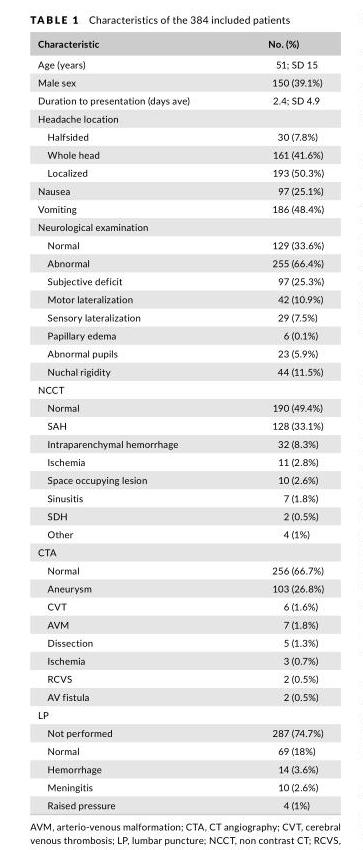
<table><thead><tr><td>Characteristic</td><td>No. (%)</td></tr></thead><tbody><tr><td>Age (years)</td><td>51; SD 15</td></tr><tr><td>Male sex</td><td>150 (39.1%)</td></tr><tr><td>Duration to presentation (days ave)</td><td>2.4; SD 4.9</td></tr><tr><td colspan="2">Headache location</td></tr><tr><td>Halfsided</td><td>30 (7.8%)</td></tr><tr><td>Whole head</td><td>161 (41.6%)</td></tr><tr><td>Localized</td><td>193 (50.3%)</td></tr><tr><td>Nausea</td><td>97 (25.1%)</td></tr><tr><td>Vomiting</td><td>186 (48.4%)</td></tr><tr><td colspan="2">Neurological examination</td></tr><tr><td>Normal</td><td>129 (33.6%)</td></tr><tr><td>Abnormal</td><td>255 (66.4%)</td></tr><tr><td>Subjective deficit</td><td>97 (25.3%)</td></tr><tr><td>Motor lateralization</td><td>42 (10.9%)</td></tr><tr><td>Sensory lateralization</td><td>29 (7.5%)</td></tr><tr><td>Papillary edema</td><td>6 (0.1%)</td></tr><tr><td>Abnormal pupils</td><td>23 (5.9%)</td></tr><tr><td>Nuchal rigidity</td><td>44 (11.5%)</td></tr><tr><td colspan="2">NCCT</td></tr><tr><td>Normal</td><td>190 (49.4%)</td></tr><tr><td>SAH</td><td>128 (33.1%)</td></tr><tr><td>Intraparenchymal hemorrhage</td><td>32 (8.3%)</td></tr><tr><td>Ischemia</td><td>11 (2.8%)</td></tr><tr><td>Space occupying lesion</td><td>10 (2.6%)</td></tr><tr><td>Sinusitis</td><td>7 (1.8%)</td></tr><tr><td>SDH</td><td>2 (0.5%)</td></tr><tr><td>Other</td><td>4 (1%)</td></tr><tr><td colspan="2">CTA</td></tr><tr><td>Normal</td><td>256 (66.7%)</td></tr><tr><td>Aneurysm</td><td>103 (26.8%)</td></tr><tr><td>CVT</td><td>6 (1.6%)</td></tr><tr><td>AVM</td><td>7 (1.8%)</td></tr><tr><td>Dissection</td><td>5 (1.3%)</td></tr><tr><td>Ischemia</td><td>3 (0.7%)</td></tr><tr><td>RCVS</td><td>2 (0.5%)</td></tr><tr><td>AV fistula</td><td>2 (0.5%)</td></tr><tr><td colspan="2">LP</td></tr><tr><td>Not performed</td><td>287 (74.7%)</td></tr><tr><td>Normal</td><td>69 (18%)</td></tr><tr><td>Hemorrhage</td><td>14 (3.6%)</td></tr><tr><td>Meningitis</td><td>10 (2.6%)</td></tr><tr><td>Raised pressure</td><td>4 (1%)</td></tr></tbody></table>